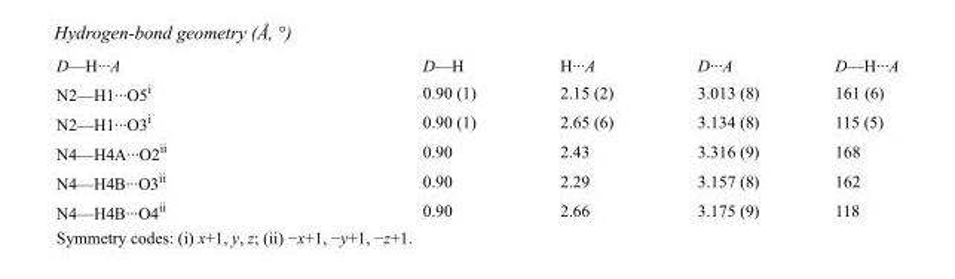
<table><tbody><tr><td>D—H···A</td><td>D—H</td><td>H···A</td><td>D···A</td><td>D—H···A</td></tr><tr><td>N2—H1···O5<sup>i</sup></td><td>0.90 (1)</td><td>2.15 (2)</td><td>3.013 (8)</td><td>161 (6)</td></tr><tr><td>N2—H1···O3<sup>i</sup></td><td>0.90 (1)</td><td>2.65 (6)</td><td>3.134 (8)</td><td>115 (5)</td></tr><tr><td>N4—H4A···O2<sup>ii</sup></td><td>0.90</td><td>2.43</td><td>3.316 (9)</td><td>168</td></tr><tr><td>N4—H4B···O3<sup>ii</sup></td><td>0.90</td><td>2.29</td><td>3.157 (8)</td><td>162</td></tr><tr><td>N4—H4B···O4<sup>ii</sup></td><td>0.90</td><td>2.66</td><td>3.175 (9)</td><td>118</td></tr></tbody></table>